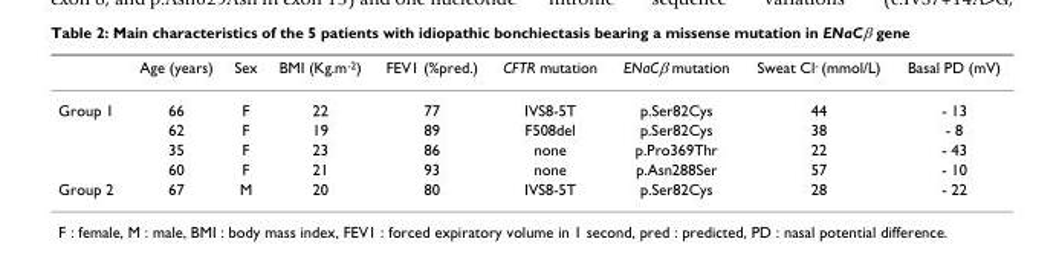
<table><thead><tr><td></td><td>Age (years)</td><td>Sex</td><td>BMI (Kg.m<sup>-2</sup>)</td><td>FEV1 (%pred.)</td><td>CFTR mutation</td><td>ENaCβ mutation</td><td>Sweat Cl<sup>-</sup> (mmol/L)</td><td>Basal PD (mV)</td></tr></thead><tbody><tr><td rowspan="4">Group 1</td><td>66</td><td>F</td><td>22</td><td>77</td><td>IVS8-5T</td><td>p.Ser82Cys</td><td>44</td><td>- 13</td></tr><tr><td>62</td><td>F</td><td>19</td><td>89</td><td>F508del</td><td>p.Ser82Cys</td><td>38</td><td>- 8</td></tr><tr><td>35</td><td>F</td><td>23</td><td>86</td><td>none</td><td>p.Pro369Thr</td><td>22</td><td>- 43</td></tr><tr><td>60</td><td>F</td><td>21</td><td>93</td><td>none</td><td>p.Asn288Ser</td><td>57</td><td>- 10</td></tr><tr><td>Group 2</td><td>67</td><td>M</td><td>20</td><td>80</td><td>IVS8-5T</td><td>p.Ser82Cys</td><td>28</td><td>- 22</td></tr></tbody></table>